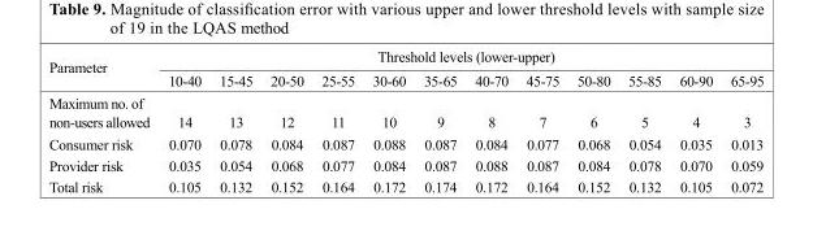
<table><thead><tr><td rowspan="2">Parameter</td><td colspan="12">Threshold levels (lower-upper)</td></tr><tr><td>10-40</td><td>15-45</td><td>20-50</td><td>25-55</td><td>30-60</td><td>35-65</td><td>40-70</td><td>45-75</td><td>50-80</td><td>55-85</td><td>60-90</td><td>65-95</td></tr></thead><tbody><tr><td>Maximum no. of non-users allowed</td><td>14</td><td>13</td><td>12</td><td>11</td><td>10</td><td>9</td><td>8</td><td>7</td><td>6</td><td>5</td><td>4</td><td>3</td></tr><tr><td>Consumer risk</td><td>0.070</td><td>0.078</td><td>0.084</td><td>0.087</td><td>0.088</td><td>0.087</td><td>0.084</td><td>0.077</td><td>0.068</td><td>0.054</td><td>0.035</td><td>0.013</td></tr><tr><td>Provider risk</td><td>0.035</td><td>0.054</td><td>0.068</td><td>0.077</td><td>0.084</td><td>0.087</td><td>0.088</td><td>0.087</td><td>0.084</td><td>0.078</td><td>0.070</td><td>0.059</td></tr><tr><td>Total risk</td><td>0.105</td><td>0.132</td><td>0.152</td><td>0.164</td><td>0.172</td><td>0.174</td><td>0.172</td><td>0.164</td><td>0.152</td><td>0.132</td><td>0.105</td><td>0.072</td></tr></tbody></table>